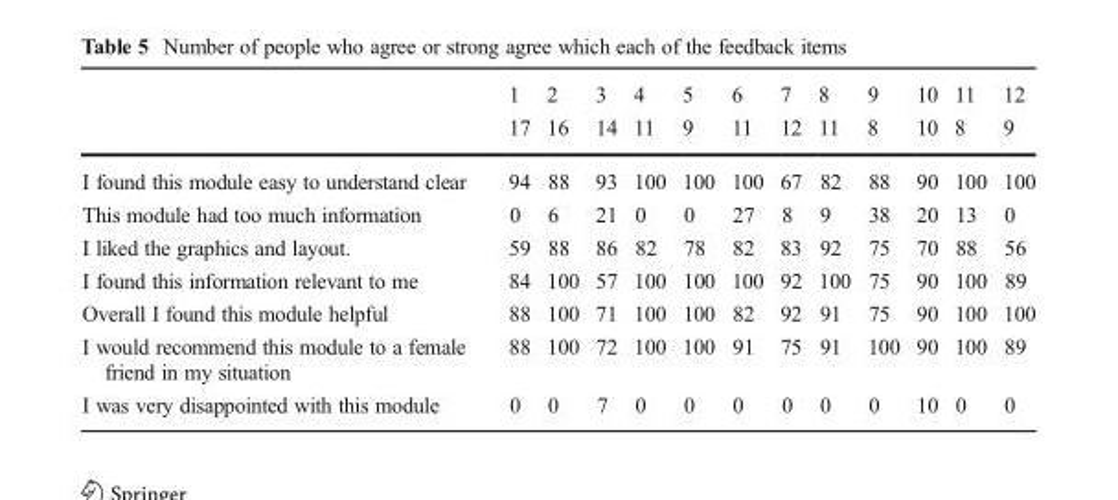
<table><thead><tr><td rowspan="2"></td><td rowspan="2">1 17</td><td rowspan="2">2 16</td><td rowspan="2">3 14</td><td rowspan="2">4 11</td><td rowspan="2">5 9</td><td rowspan="2">6 11</td><td rowspan="2">7 12</td><td rowspan="2">8 11</td><td rowspan="2">9 8</td><td rowspan="2">10 10</td><td rowspan="2">11 8</td><td rowspan="2">12 9</td></tr><tr></tr></thead><tbody><tr><td>I found this module easy to understand clear</td><td>94</td><td>88</td><td>93</td><td>100</td><td>100</td><td>100</td><td>67</td><td>82</td><td>88</td><td>90</td><td>100</td><td>100</td></tr><tr><td>This module had too much information</td><td>0</td><td>6</td><td>21</td><td>0</td><td>0</td><td>27</td><td>8</td><td>9</td><td>38</td><td>20</td><td>13</td><td>0</td></tr><tr><td>I liked the graphics and layout.</td><td>59</td><td>88</td><td>86</td><td>82</td><td>78</td><td>82</td><td>83</td><td>92</td><td>75</td><td>70</td><td>88</td><td>56</td></tr><tr><td>I found this information relevant to me</td><td>84</td><td>100</td><td>57</td><td>100</td><td>100</td><td>100</td><td>92</td><td>100</td><td>75</td><td>90</td><td>100</td><td>89</td></tr><tr><td>Overall I found this module helpful</td><td>88</td><td>100</td><td>71</td><td>100</td><td>100</td><td>82</td><td>92</td><td>91</td><td>75</td><td>90</td><td>100</td><td>100</td></tr><tr><td>I would recommend this module to a female friend in my situation</td><td>88</td><td>100</td><td>72</td><td>100</td><td>100</td><td>91</td><td>75</td><td>91</td><td>100</td><td>90</td><td>100</td><td>89</td></tr><tr><td>I was very disappointed with this module</td><td>0</td><td>0</td><td>7</td><td>0</td><td>0</td><td>0</td><td>0</td><td>0</td><td>0</td><td>10</td><td>0</td><td>0</td></tr></tbody></table>